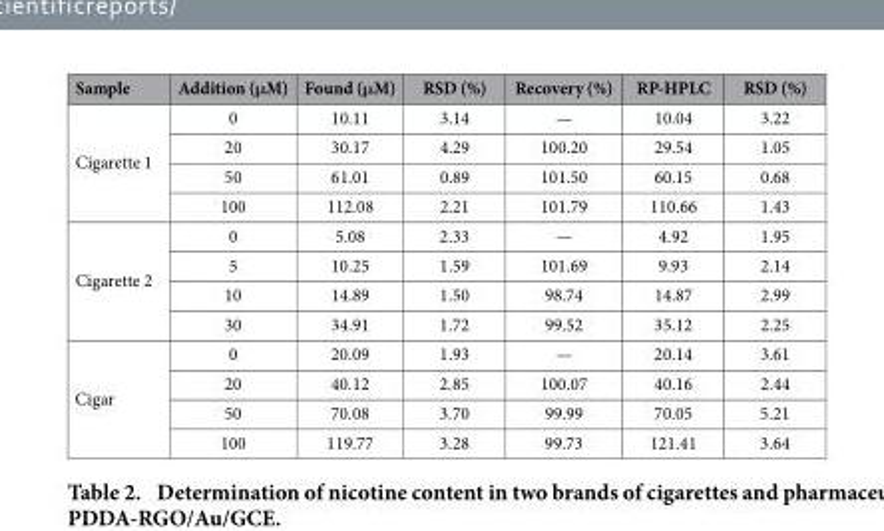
<table><thead><tr><td>Sample</td><td>Addition (μM)</td><td>Found (μM)</td><td>RSD (%)</td><td>Recovery (%)</td><td>RP-HPLC</td><td>RSD (%)</td></tr></thead><tbody><tr><td rowspan="4">Cigarette 1</td><td>0</td><td>10.11</td><td>3.14</td><td>—</td><td>10.04</td><td>3.22</td></tr><tr><td>20</td><td>30.17</td><td>4.29</td><td>100.20</td><td>29.54</td><td>1.05</td></tr><tr><td>50</td><td>61.01</td><td>0.89</td><td>101.50</td><td>60.15</td><td>0.68</td></tr><tr><td>100</td><td>112.08</td><td>2.21</td><td>101.79</td><td>110.66</td><td>1.43</td></tr><tr><td rowspan="4">Cigarette 2</td><td>0</td><td>5.08</td><td>2.33</td><td>—</td><td>4.92</td><td>1.95</td></tr><tr><td>5</td><td>10.25</td><td>1.59</td><td>101.69</td><td>9.93</td><td>2.14</td></tr><tr><td>10</td><td>14.89</td><td>1.50</td><td>98.74</td><td>14.87</td><td>2.99</td></tr><tr><td>30</td><td>34.91</td><td>1.72</td><td>99.52</td><td>35.12</td><td>2.25</td></tr><tr><td rowspan="4">Cigar</td><td>0</td><td>20.09</td><td>1.93</td><td>—</td><td>20.14</td><td>3.61</td></tr><tr><td>20</td><td>40.12</td><td>2.85</td><td>100.07</td><td>40.16</td><td>2.44</td></tr><tr><td>50</td><td>70.08</td><td>3.70</td><td>99.99</td><td>70.05</td><td>5.21</td></tr><tr><td>100</td><td>119.77</td><td>3.28</td><td>99.73</td><td>121.41</td><td>3.64</td></tr></tbody></table>